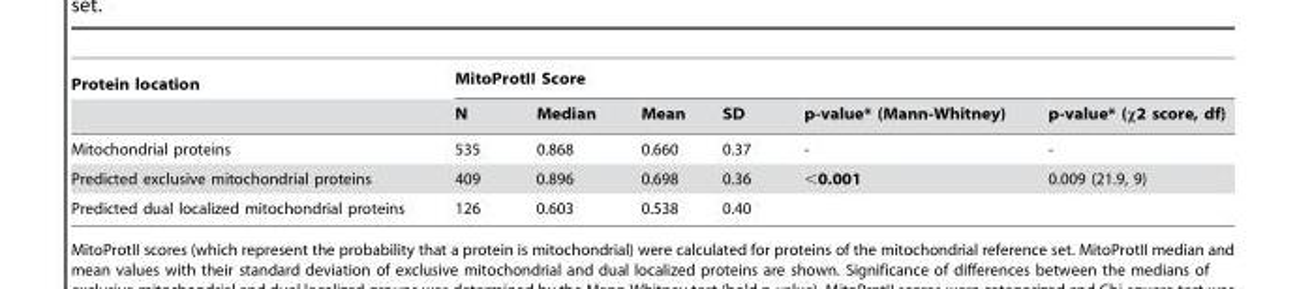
<table><thead><tr><td rowspan="2">Protein location</td><td colspan="6">MitoProtII Score</td></tr><tr><td>N</td><td>Median</td><td>Mean</td><td>SD</td><td>p-value* (Mann-Whitney)</td><td>p-value* (χ2 score, df)</td></tr></thead><tbody><tr><td>Mitochondrial proteins</td><td>535</td><td>0.868</td><td>0.660</td><td>0.37</td><td>-</td><td>-</td></tr><tr><td>Predicted exclusive mitochondrial proteins</td><td>409</td><td>0.896</td><td>0.698</td><td>0.36</td><td>&lt;0.001</td><td>0.009 (21.9, 9)</td></tr><tr><td>Predicted dual localized mitochondrial proteins</td><td>126</td><td>0.603</td><td>0.538</td><td>0.40</td><td></td><td></td></tr></tbody></table>